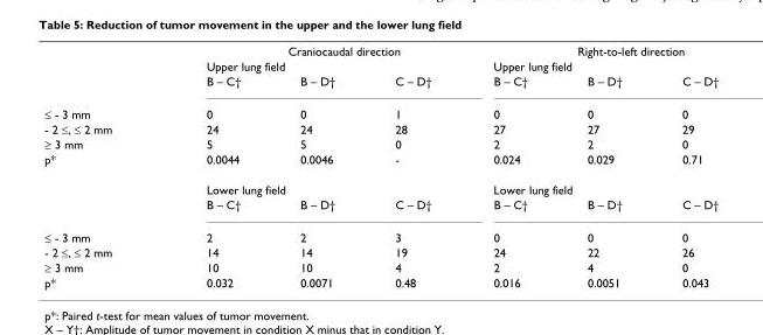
<table><thead><tr><td rowspan="3"></td><td rowspan="2" colspan="3">Craniocaudal direction Upper lung field</td><td rowspan="2" colspan="3">Right-to-left direction Upper lung field</td></tr><tr></tr><tr><td>B – C†</td><td>B – D†</td><td>C – D†</td><td>B – C†</td><td>B – D†</td><td>C – D†</td></tr></thead><tbody><tr><td>≤ - 3 mm</td><td>0</td><td>0</td><td>1</td><td>0</td><td>0</td><td>0</td></tr><tr><td>- 2 ≤, ≤ 2 mm</td><td>24</td><td>24</td><td>28</td><td>27</td><td>27</td><td>29</td></tr><tr><td>≥ 3 mm</td><td>5</td><td>5</td><td>0</td><td>2</td><td>2</td><td>0</td></tr><tr><td rowspan="3">p*</td><td>0.0044</td><td>0.0046</td><td>-</td><td>0.024</td><td>0.029</td><td>0.71</td></tr><tr><td colspan="3">Lower lung field</td><td colspan="3">Lower lung field</td></tr><tr><td>B – C†</td><td>B – D†</td><td>C – D†</td><td>B – C†</td><td>B – D†</td><td>C – D†</td></tr><tr><td>≤ - 3 mm</td><td>2</td><td>2</td><td>3</td><td>0</td><td>0</td><td>0</td></tr><tr><td>- 2 ≤, ≤ 2 mm</td><td>14</td><td>14</td><td>19</td><td>24</td><td>22</td><td>26</td></tr><tr><td>≥ 3 mm</td><td>10</td><td>10</td><td>4</td><td>2</td><td>4</td><td>0</td></tr><tr><td>p*</td><td>0.032</td><td>0.0071</td><td>0.48</td><td>0.016</td><td>0.0051</td><td>0.043</td></tr></tbody></table>